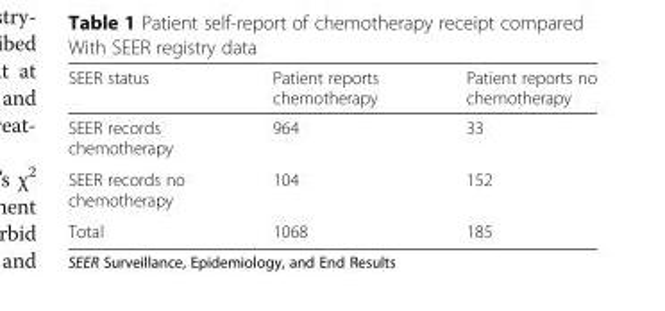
<table><thead><tr><td>SEER status</td><td>Patient reports chemotherapy</td><td>Patient reports no chemotherapy</td></tr></thead><tbody><tr><td>SEER records chemotherapy</td><td>964</td><td>33</td></tr><tr><td>SEER records no chemotherapy</td><td>104</td><td>152</td></tr><tr><td>Total</td><td>1068</td><td>185</td></tr></tbody></table>